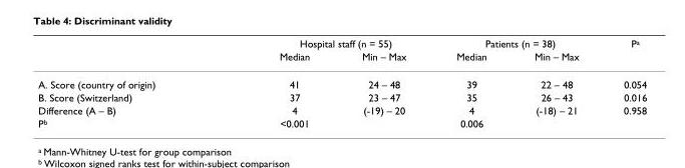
<table><thead><tr><td rowspan="2"></td><td colspan="2">Hospital staff (n = 55)</td><td colspan="2">Patients (n = 38)</td><td rowspan="2">P<sup>a</sup></td></tr><tr><td>Median</td><td>Min – Max</td><td>Median</td><td>Min – Max</td></tr></thead><tbody><tr><td>A. Score (country of origin)</td><td>41</td><td>24 – 48</td><td>39</td><td>22 – 48</td><td>0.054</td></tr><tr><td>B. Score (Switzerland)</td><td>37</td><td>23 – 47</td><td>35</td><td>26 – 43</td><td>0.016</td></tr><tr><td>Difference (A – B)</td><td>4</td><td>(-19) – 20</td><td>4</td><td>(-18) – 21</td><td>0.958</td></tr><tr><td>P<sup>b</sup></td><td>&lt;0.001</td><td></td><td>0.006</td><td></td><td></td></tr></tbody></table>